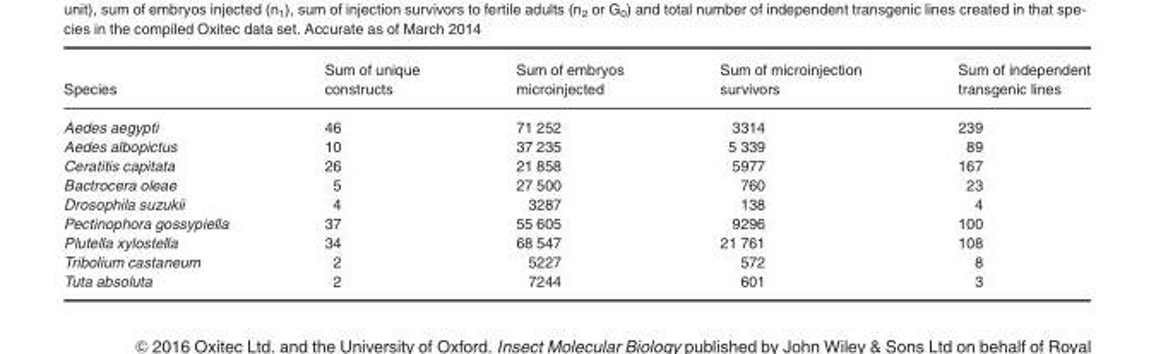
<table><thead><tr><td>Species</td><td>Sum of unique constructs</td><td>Sum of embryos microinjected</td><td>Sum of microinjection survivors</td><td>Sum of independent transgenic lines</td></tr></thead><tbody><tr><td>Aedes aegypti</td><td>46</td><td>71 252</td><td>3314</td><td>239</td></tr><tr><td>Aedes albopictus</td><td>10</td><td>37 235</td><td>5 339</td><td>89</td></tr><tr><td>Ceratitis capitata</td><td>26</td><td>21 858</td><td>5977</td><td>167</td></tr><tr><td>Bactrocera oleae</td><td>5</td><td>27 500</td><td>760</td><td>23</td></tr><tr><td>Drosophila suzukii</td><td>4</td><td>3287</td><td>138</td><td>4</td></tr><tr><td>Pectinophora gossypiella</td><td>37</td><td>55 605</td><td>9296</td><td>100</td></tr><tr><td>Plutella xylostella</td><td>34</td><td>68 547</td><td>21 761</td><td>108</td></tr><tr><td>Tribolium castaneum</td><td>2</td><td>5227</td><td>572</td><td>8</td></tr><tr><td>Tuta absoluta</td><td>2</td><td>7244</td><td>601</td><td>3</td></tr></tbody></table>